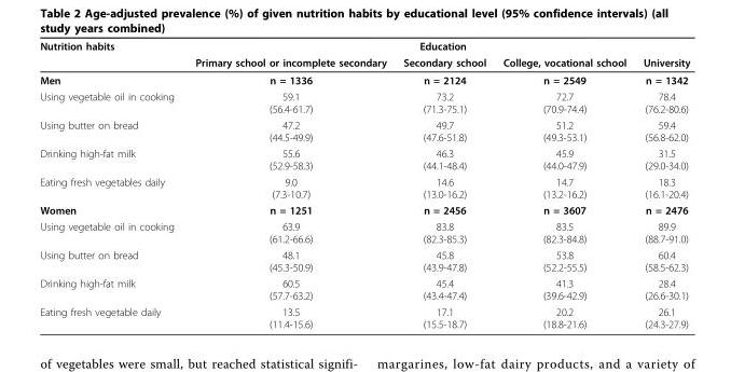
<table><thead><tr><td rowspan="2">Nutrition habits</td><td colspan="4">Education</td></tr><tr><td>Primary school or incomplete secondary</td><td>Secondary school</td><td>College, vocational school</td><td>University</td></tr></thead><tbody><tr><td>Men</td><td>n = 1336</td><td>n = 2124</td><td>n = 2549</td><td>n = 1342</td></tr><tr><td>Using vegetable oil in cooking</td><td>59.1 (56.4-61.7)</td><td>73.2 (71.3-75.1)</td><td>72.7 (70.9-74.4)</td><td>78.4 (76.2-80.6)</td></tr><tr><td>Using butter on bread</td><td>47.2 (44.5-49.9)</td><td>49.7 (47.6-51.8)</td><td>51.2 (49.3-53.1)</td><td>59.4 (56.8-62.0)</td></tr><tr><td>Drinking high-fat milk</td><td>55.6 (52.9-58.3)</td><td>46.3 (44.1-48.4)</td><td>45.9 (44.0-47.9)</td><td>31.5 (29.0-34.0)</td></tr><tr><td>Eating fresh vegetables daily</td><td>9.0 (7.3-10.7)</td><td>14.6 (13.0-16.2)</td><td>14.7 (13.2-16.2)</td><td>18.3 (16.1-20.4)</td></tr><tr><td>Women</td><td>n = 1251</td><td>n = 2456</td><td>n = 3607</td><td>n = 2476</td></tr><tr><td>Using vegetable oil in cooking</td><td>63.9 (61.2-66.6)</td><td>83.8 (82.3-85.3)</td><td>83.5 (82.3-84.8)</td><td>89.9 (88.7-91.0)</td></tr><tr><td>Using butter on bread</td><td>48.1 (45.3-50.9)</td><td>45.8 (43.9-47.8)</td><td>53.8 (52.2-55.5)</td><td>60.4 (58.5-62.3)</td></tr><tr><td>Drinking high-fat milk</td><td>60.5 (57.7-63.2)</td><td>45.4 (43.4-47.4)</td><td>41.3 (39.6-42.9)</td><td>28.4 (26.6-30.1)</td></tr><tr><td>Eating fresh vegetable daily</td><td>13.5 (11.4-15.6)</td><td>17.1 (15.5-18.7)</td><td>20.2 (18.8-21.6)</td><td>26.1 (24.3-27.9)</td></tr></tbody></table>